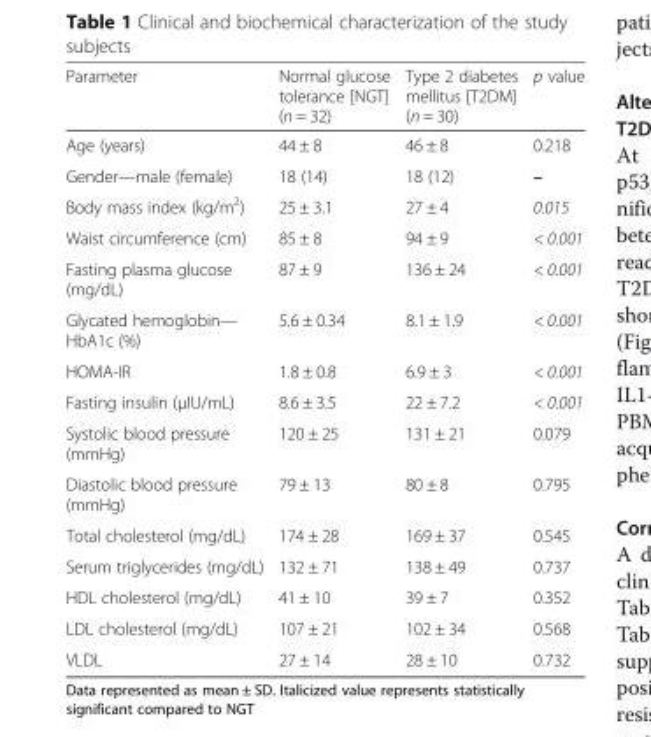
<table><thead><tr><td>Parameter</td><td>Normal glucose tolerance [NGT] (n = 32)</td><td>Type 2 diabetes mellitus [T2DM] (n = 30)</td><td>p value</td></tr></thead><tbody><tr><td>Age (years)</td><td>44 ± 8</td><td>46 ± 8</td><td>0.218</td></tr><tr><td>Gender—male (female)</td><td>18 (14)</td><td>18 (12)</td><td>–</td></tr><tr><td>Body mass index (kg/m<sup>2</sup>)</td><td>25 ± 3.1</td><td>27 ± 4</td><td>0.015</td></tr><tr><td>Waist circumference (cm)</td><td>85 ± 8</td><td>94 ± 9</td><td>&lt; 0.001</td></tr><tr><td>Fasting plasma glucose (mg/dL)</td><td>87 ± 9</td><td>136 ± 24</td><td>&lt; 0.001</td></tr><tr><td>Glycated hemoglobin— HbA1c (%)</td><td>5.6 ± 0.34</td><td>8.1 ± 1.9</td><td>&lt; 0.001</td></tr><tr><td>HOMA-IR</td><td>1.8 ± 0.8</td><td>6.9 ± 3</td><td>&lt; 0.001</td></tr><tr><td>Fasting insulin (μIU/mL)</td><td>8.6 ± 3.5</td><td>22 ± 7.2</td><td>&lt; 0.001</td></tr><tr><td>Systolic blood pressure (mmHg)</td><td>120 ± 25</td><td>131 ± 21</td><td>0.079</td></tr><tr><td>Diastolic blood pressure (mmHg)</td><td>79 ± 13</td><td>80 ± 8</td><td>0.795</td></tr><tr><td>Total cholesterol (mg/dL)</td><td>174 ± 28</td><td>169 ± 37</td><td>0.545</td></tr><tr><td>Serum triglycerides (mg/dL)</td><td>132 ± 71</td><td>138 ± 49</td><td>0.737</td></tr><tr><td>HDL cholesterol (mg/dL)</td><td>41 ± 10</td><td>39 ± 7</td><td>0.352</td></tr><tr><td>LDL cholesterol (mg/dL)</td><td>107 ± 21</td><td>102 ± 34</td><td>0.568</td></tr><tr><td>VLDL</td><td>27 ± 14</td><td>28 ± 10</td><td>0.732</td></tr></tbody></table>